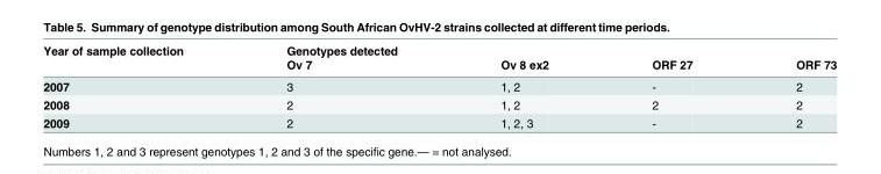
<table><thead><tr><td rowspan="2">Year of sample collection</td><td rowspan="2">Genotypes detected Ov 7</td><td rowspan="2">Ov 8 ex2</td><td rowspan="2">ORF 27</td><td rowspan="2">ORF 73</td></tr><tr></tr></thead><tbody><tr><td>2007</td><td>3</td><td>1, 2</td><td>-</td><td>2</td></tr><tr><td>2008</td><td>2</td><td>1, 2</td><td>2</td><td>2</td></tr><tr><td>2009</td><td>2</td><td>1, 2, 3</td><td>-</td><td>2</td></tr></tbody></table>